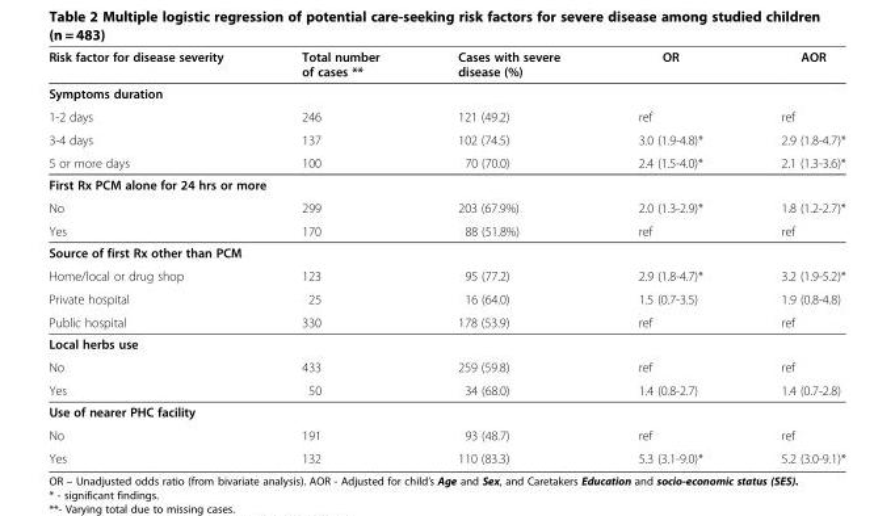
<table><thead><tr><td>Risk factor for disease severity</td><td>Total number of cases **</td><td>Cases with severe disease (%)</td><td>OR</td><td>AOR</td></tr></thead><tbody><tr><td colspan="5">Symptoms duration</td></tr><tr><td>1-2 days</td><td>246</td><td>121 (49.2)</td><td>ref</td><td>ref</td></tr><tr><td>3-4 days</td><td>137</td><td>102 (74.5)</td><td>3.0 (1.9-4.8)*</td><td>2.9 (1.8-4.7)*</td></tr><tr><td>5 or more days</td><td>100</td><td>70 (70.0)</td><td>2.4 (1.5-4.0)*</td><td>2.1 (1.3-3.6)*</td></tr><tr><td colspan="5">First Rx PCM alone for 24 hrs or more</td></tr><tr><td>No</td><td>299</td><td>203 (67.9%)</td><td>2.0 (1.3-2.9)*</td><td>1.8 (1.2-2.7)*</td></tr><tr><td>Yes</td><td>170</td><td>88 (51.8%)</td><td>ref</td><td>ref</td></tr><tr><td colspan="5">Source of first Rx other than PCM</td></tr><tr><td>Home/local or drug shop</td><td>123</td><td>95 (77.2)</td><td>2.9 (1.8-4.7)*</td><td>3.2 (1.9-5.2)*</td></tr><tr><td>Private hospital</td><td>25</td><td>16 (64.0)</td><td>1.5 (0.7-3.5)</td><td>1.9 (0.8-4.8)</td></tr><tr><td>Public hospital</td><td>330</td><td>178 (53.9)</td><td>ref</td><td>ref</td></tr><tr><td colspan="5">Local herbs use</td></tr><tr><td>No</td><td>433</td><td>259 (59.8)</td><td>ref</td><td>ref</td></tr><tr><td>Yes</td><td>50</td><td>34 (68.0)</td><td>1.4 (0.8-2.7)</td><td>1.4 (0.7-2.8)</td></tr><tr><td colspan="5">Use of nearer PHC facility</td></tr><tr><td>No</td><td>191</td><td>93 (48.7)</td><td>ref</td><td>ref</td></tr><tr><td>Yes</td><td>132</td><td>110 (83.3)</td><td>5.3 (3.1-9.0)*</td><td>5.2 (3.0-9.1)*</td></tr></tbody></table>